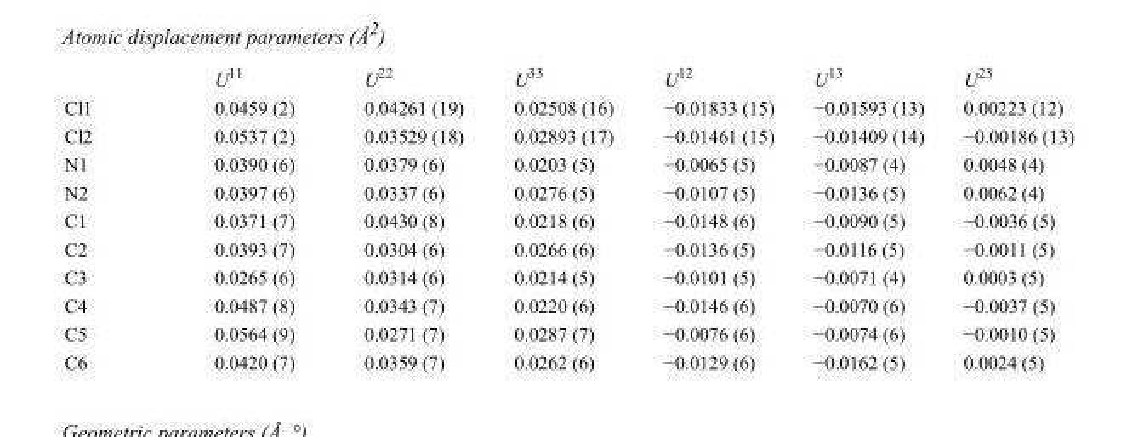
<table><thead><tr><td></td><td>U<sup>11</sup></td><td>U<sup>22</sup></td><td>U<sup>33</sup></td><td>U<sup>12</sup></td><td>U<sup>13</sup></td><td>U<sup>23</sup></td></tr></thead><tbody><tr><td>Cl1</td><td>0.0459 (2)</td><td>0.04261 (19)</td><td>0.02508 (16)</td><td>−0.01833 (15)</td><td>−0.01593 (13)</td><td>0.00223 (12)</td></tr><tr><td>Cl2</td><td>0.0537 (2)</td><td>0.03529 (18)</td><td>0.02893 (17)</td><td>−0.01461 (15)</td><td>−0.01409 (14)</td><td>−0.00186 (13)</td></tr><tr><td>N1</td><td>0.0390 (6)</td><td>0.0379 (6)</td><td>0.0203 (5)</td><td>−0.0065 (5)</td><td>−0.0087 (4)</td><td>0.0048 (4)</td></tr><tr><td>N2</td><td>0.0397 (6)</td><td>0.0337 (6)</td><td>0.0276 (5)</td><td>−0.0107 (5)</td><td>−0.0136 (5)</td><td>0.0062 (4)</td></tr><tr><td>C1</td><td>0.0371 (7)</td><td>0.0430 (8)</td><td>0.0218 (6)</td><td>−0.0148 (6)</td><td>−0.0090 (5)</td><td>−0.0036 (5)</td></tr><tr><td>C2</td><td>0.0393 (7)</td><td>0.0304 (6)</td><td>0.0266 (6)</td><td>−0.0136 (5)</td><td>−0.0116 (5)</td><td>−0.0011 (5)</td></tr><tr><td>C3</td><td>0.0265 (6)</td><td>0.0314 (6)</td><td>0.0214 (5)</td><td>−0.0101 (5)</td><td>−0.0071 (4)</td><td>0.0003 (5)</td></tr><tr><td>C4</td><td>0.0487 (8)</td><td>0.0343 (7)</td><td>0.0220 (6)</td><td>−0.0146 (6)</td><td>−0.0070 (6)</td><td>−0.0037 (5)</td></tr><tr><td>C5</td><td>0.0564 (9)</td><td>0.0271 (7)</td><td>0.0287 (7)</td><td>−0.0076 (6)</td><td>−0.0074 (6)</td><td>−0.0010 (5)</td></tr><tr><td>C6</td><td>0.0420 (7)</td><td>0.0359 (7)</td><td>0.0262 (6)</td><td>−0.0129 (6)</td><td>−0.0162 (5)</td><td>0.0024 (5)</td></tr></tbody></table>